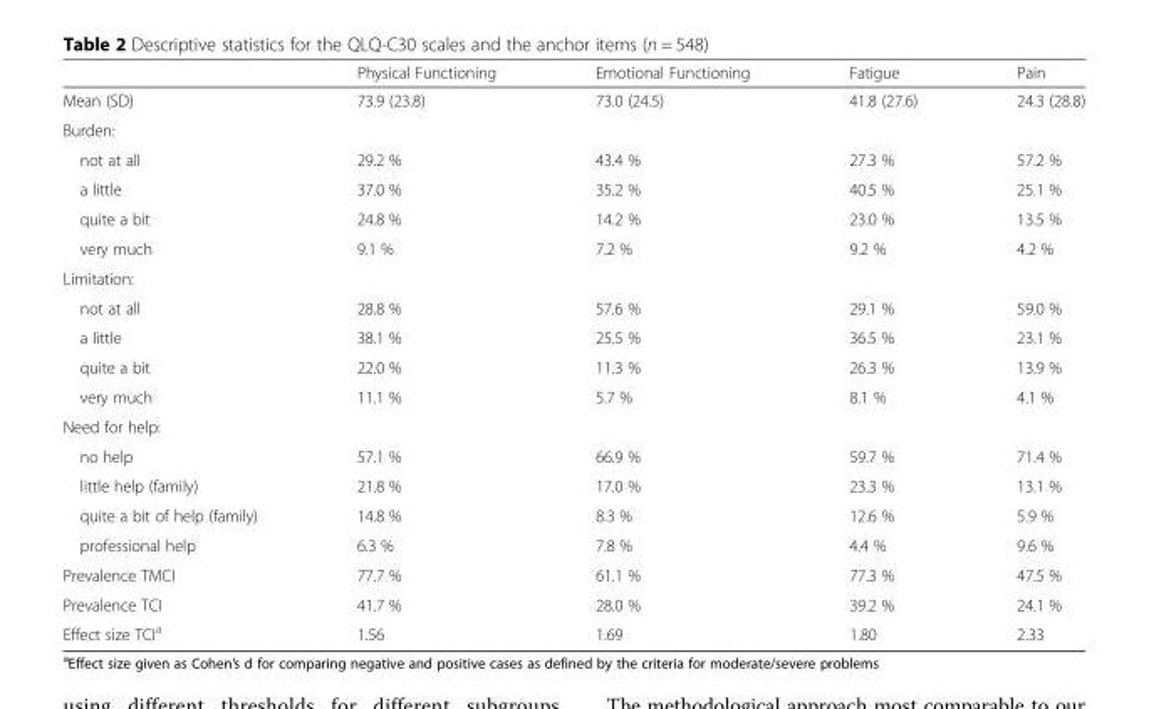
<table><thead><tr><td></td><td>Physical Functioning</td><td>Emotional Functioning</td><td>Fatigue</td><td>Pain</td></tr></thead><tbody><tr><td>Mean (SD)</td><td>73.9 (23.8)</td><td>73.0 (24.5)</td><td>41.8 (27.6)</td><td>24.3 (28.8)</td></tr><tr><td colspan="5">Burden:</td></tr><tr><td>not at all</td><td>29.2 %</td><td>43.4 %</td><td>27.3 %</td><td>57.2 %</td></tr><tr><td>a little</td><td>37.0 %</td><td>35.2 %</td><td>40.5 %</td><td>25.1 %</td></tr><tr><td>quite a bit</td><td>24.8 %</td><td>14.2 %</td><td>23.0 %</td><td>13.5 %</td></tr><tr><td>very much</td><td>9.1 %</td><td>7.2 %</td><td>9.2 %</td><td>4.2 %</td></tr><tr><td colspan="5">Limitation:</td></tr><tr><td>not at all</td><td>28.8 %</td><td>57.6 %</td><td>29.1 %</td><td>59.0 %</td></tr><tr><td>a little</td><td>38.1 %</td><td>25.5 %</td><td>36.5 %</td><td>23.1 %</td></tr><tr><td>quite a bit</td><td>22.0 %</td><td>11.3 %</td><td>26.3 %</td><td>13.9 %</td></tr><tr><td>very much</td><td>11.1 %</td><td>5.7 %</td><td>8.1 %</td><td>4.1 %</td></tr><tr><td colspan="5">Need for help:</td></tr><tr><td>no help</td><td>57.1 %</td><td>66.9 %</td><td>59.7 %</td><td>71.4 %</td></tr><tr><td>little help (family)</td><td>21.8 %</td><td>17.0 %</td><td>23.3 %</td><td>13.1 %</td></tr><tr><td>quite a bit of help (family)</td><td>14.8 %</td><td>8.3 %</td><td>12.6 %</td><td>5.9 %</td></tr><tr><td>professional help</td><td>6.3 %</td><td>7.8 %</td><td>4.4 %</td><td>9.6 %</td></tr><tr><td>Prevalence TMCI</td><td>77.7 %</td><td>61.1 %</td><td>77.3 %</td><td>47.5 %</td></tr><tr><td>Prevalence TCI</td><td>41.7 %</td><td>28.0 %</td><td>39.2 %</td><td>24.1 %</td></tr><tr><td>Effect size TCI<sup>a</sup></td><td>1.56</td><td>1.69</td><td>1.80</td><td>2.33</td></tr></tbody></table>